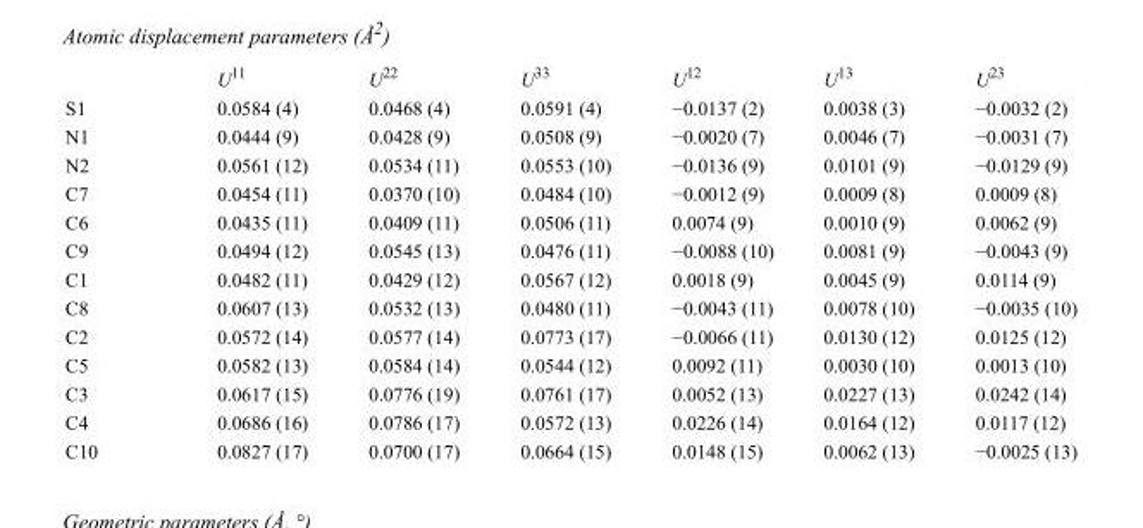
<table><thead><tr><td></td><td>U<sup>11</sup></td><td>U<sup>22</sup></td><td>U<sup>33</sup></td><td>U<sup>12</sup></td><td>U<sup>13</sup></td><td>U<sup>23</sup></td></tr></thead><tbody><tr><td>S1</td><td>0.0584 (4)</td><td>0.0468 (4)</td><td>0.0591 (4)</td><td>−0.0137 (2)</td><td>0.0038 (3)</td><td>−0.0032 (2)</td></tr><tr><td>N1</td><td>0.0444 (9)</td><td>0.0428 (9)</td><td>0.0508 (9)</td><td>−0.0020 (7)</td><td>0.0046 (7)</td><td>−0.0031 (7)</td></tr><tr><td>N2</td><td>0.0561 (12)</td><td>0.0534 (11)</td><td>0.0553 (10)</td><td>−0.0136 (9)</td><td>0.0101 (9)</td><td>−0.0129 (9)</td></tr><tr><td>C7</td><td>0.0454 (11)</td><td>0.0370 (10)</td><td>0.0484 (10)</td><td>−0.0012 (9)</td><td>0.0009 (8)</td><td>0.0009 (8)</td></tr><tr><td>C6</td><td>0.0435 (11)</td><td>0.0409 (11)</td><td>0.0506 (11)</td><td>0.0074 (9)</td><td>0.0010 (9)</td><td>0.0062 (9)</td></tr><tr><td>C9</td><td>0.0494 (12)</td><td>0.0545 (13)</td><td>0.0476 (11)</td><td>−0.0088 (10)</td><td>0.0081 (9)</td><td>−0.0043 (9)</td></tr><tr><td>C1</td><td>0.0482 (11)</td><td>0.0429 (12)</td><td>0.0567 (12)</td><td>0.0018 (9)</td><td>0.0045 (9)</td><td>0.0114 (9)</td></tr><tr><td>C8</td><td>0.0607 (13)</td><td>0.0532 (13)</td><td>0.0480 (11)</td><td>−0.0043 (11)</td><td>0.0078 (10)</td><td>−0.0035 (10)</td></tr><tr><td>C2</td><td>0.0572 (14)</td><td>0.0577 (14)</td><td>0.0773 (17)</td><td>−0.0066 (11)</td><td>0.0130 (12)</td><td>0.0125 (12)</td></tr><tr><td>C5</td><td>0.0582 (13)</td><td>0.0584 (14)</td><td>0.0544 (12)</td><td>0.0092 (11)</td><td>0.0030 (10)</td><td>0.0013 (10)</td></tr><tr><td>C3</td><td>0.0617 (15)</td><td>0.0776 (19)</td><td>0.0761 (17)</td><td>0.0052 (13)</td><td>0.0227 (13)</td><td>0.0242 (14)</td></tr><tr><td>C4</td><td>0.0686 (16)</td><td>0.0786 (17)</td><td>0.0572 (13)</td><td>0.0226 (14)</td><td>0.0164 (12)</td><td>0.0117 (12)</td></tr><tr><td>C10</td><td>0.0827 (17)</td><td>0.0700 (17)</td><td>0.0664 (15)</td><td>0.0148 (15)</td><td>0.0062 (13)</td><td>−0.0025 (13)</td></tr></tbody></table>